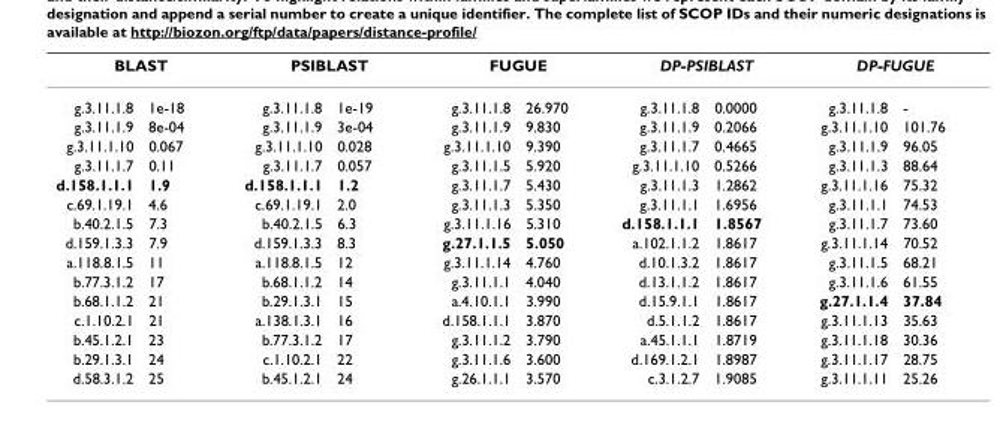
<table><thead><tr><td colspan="2">BLAST</td><td colspan="2">PSIBLAST</td><td colspan="2">FUGUE</td><td colspan="2">DP-PSIBLAST</td><td colspan="2">DP-FUGUE</td></tr><tr><td>g.3.11.1.8</td><td>1e-18</td><td>g.3.11.1.8</td><td>1e-19</td><td>g.3.11.1.8</td><td>26.970</td><td>g.3.11.1.8</td><td>0.0000</td><td>g.3.11.1.8</td><td>-</td></tr></thead><tbody><tr><td>g.3.11.1.9</td><td>8e-04</td><td>g.3.11.1.9</td><td>3e-04</td><td>g.3.11.1.9</td><td>9.830</td><td>g.3.11.1.9</td><td>0.2066</td><td>g.3.11.1.10</td><td>101.76</td></tr><tr><td>g.3.11.1.10</td><td>0.067</td><td>g.3.11.1.10</td><td>0.028</td><td>g.3.11.1.10</td><td>9.390</td><td>g.3.11.1.7</td><td>0.4665</td><td>g.3.11.1.9</td><td>96.05</td></tr><tr><td>g.3.11.1.7</td><td>0.11</td><td>g.3.11.1.7</td><td>0.057</td><td>g.3.11.1.5</td><td>5.920</td><td>g.3.11.1.10</td><td>0.5266</td><td>g.3.11.1.3</td><td>88.64</td></tr><tr><td>d.158.1.1.1</td><td>1.9</td><td>d.158.1.1.1</td><td>1.2</td><td>g.3.11.1.7</td><td>5.430</td><td>g.3.11.1.3</td><td>1.2862</td><td>g.3.11.1.16</td><td>75.32</td></tr><tr><td>c.69.1.19.1</td><td>4.6</td><td>c.69.1.19.1</td><td>2.0</td><td>g.3.11.1.3</td><td>5.350</td><td>g.3.11.1.1</td><td>1.6956</td><td>g.3.11.1.1</td><td>74.53</td></tr><tr><td>b.40.2.1.5</td><td>7.3</td><td>b.40.2.1.5</td><td>6.3</td><td>g.3.11.1.16</td><td>5.310</td><td>d.158.1.1.1</td><td>1.8567</td><td>g.3.11.1.7</td><td>73.60</td></tr><tr><td>d.159.1.3.3</td><td>7.9</td><td>d.159.1.3.3</td><td>8.3</td><td>g.27.1.1.5</td><td>5.050</td><td>a.102.1.1.2</td><td>1.8617</td><td>g.3.11.1.14</td><td>70.52</td></tr><tr><td>a.118.8.1.5</td><td>11</td><td>a.118.8.1.5</td><td>12</td><td>g.3.11.1.14</td><td>4.760</td><td>d.10.1.3.2</td><td>1.8617</td><td>g.3.11.1.5</td><td>68.21</td></tr><tr><td>b.77.3.1.2</td><td>17</td><td>b.68.1.1.2</td><td>14</td><td>g.3.11.1.1</td><td>4.040</td><td>d.13.1.1.2</td><td>1.8617</td><td>g.3.11.1.6</td><td>61.55</td></tr><tr><td>b.68.1.1.2</td><td>21</td><td>b.29.1.3.1</td><td>15</td><td>a.4.10.1.1</td><td>3.990</td><td>d.15.9.1.1</td><td>1.8617</td><td>g.27.1.1.4</td><td>37.84</td></tr><tr><td>c.1.10.2.1</td><td>21</td><td>a.138.1.3.1</td><td>16</td><td>d.158.1.1.1</td><td>3.870</td><td>d.5.1.1.2</td><td>1.8617</td><td>g.3.11.1.13</td><td>35.63</td></tr><tr><td>b.45.1.2.1</td><td>23</td><td>b.77.3.1.2</td><td>17</td><td>g.3.11.1.2</td><td>3.790</td><td>a.45.1.1.1</td><td>1.8719</td><td>g.3.11.1.18</td><td>30.36</td></tr><tr><td>b.29.1.3.1</td><td>24</td><td>c.1.10.2.1</td><td>22</td><td>g.3.11.1.6</td><td>3.600</td><td>d.169.1.2.1</td><td>1.8987</td><td>g.3.11.1.17</td><td>28.75</td></tr><tr><td>d.58.3.1.2</td><td>25</td><td>b.45.1.2.1</td><td>24</td><td>g.26.1.1.1</td><td>3.570</td><td>c.3.1.2.7</td><td>1.9085</td><td>g.3.11.1.11</td><td>25.26</td></tr></tbody></table>